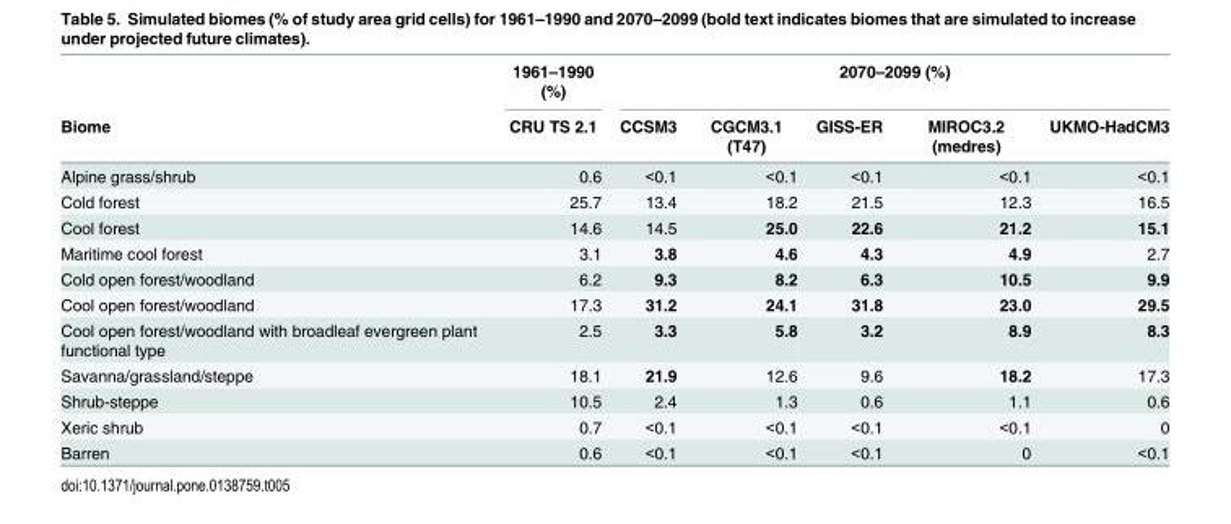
<table><thead><tr><td rowspan="2">Biome</td><td rowspan="2">1961–1990 (%) CRU TS 2.1</td><td colspan="5">2070–2099 (%)</td></tr><tr><td>CCSM3</td><td>CGCM3.1 (T47)</td><td>GISS-ER</td><td>MIROC3.2 (medres)</td><td>UKMO-HadCM3</td></tr></thead><tbody><tr><td>Alpine grass/shrub</td><td>0.6</td><td>&lt;0.1</td><td>&lt;0.1</td><td>&lt;0.1</td><td>&lt;0.1</td><td>&lt;0.1</td></tr><tr><td>Cold forest</td><td>25.7</td><td>13.4</td><td>18.2</td><td>21.5</td><td>12.3</td><td>16.5</td></tr><tr><td>Cool forest</td><td>14.6</td><td>14.5</td><td>25.0</td><td>22.6</td><td>21.2</td><td>15.1</td></tr><tr><td>Maritime cool forest</td><td>3.1</td><td>3.8</td><td>4.6</td><td>4.3</td><td>4.9</td><td>2.7</td></tr><tr><td>Cold open forest/woodland</td><td>6.2</td><td>9.3</td><td>8.2</td><td>6.3</td><td>10.5</td><td>9.9</td></tr><tr><td>Cool open forest/woodland</td><td>17.3</td><td>31.2</td><td>24.1</td><td>31.8</td><td>23.0</td><td>29.5</td></tr><tr><td>Cool open forest/woodland with broadleaf evergreen plant functional type</td><td>2.5</td><td>3.3</td><td>5.8</td><td>3.2</td><td>8.9</td><td>8.3</td></tr><tr><td>Savanna/grassland/steppe</td><td>18.1</td><td>21.9</td><td>12.6</td><td>9.6</td><td>18.2</td><td>17.3</td></tr><tr><td>Shrub-steppe</td><td>10.5</td><td>2.4</td><td>1.3</td><td>0.6</td><td>1.1</td><td>0.6</td></tr><tr><td>Xeric shrub</td><td>0.7</td><td>&lt;0.1</td><td>&lt;0.1</td><td>&lt;0.1</td><td>&lt;0.1</td><td>0</td></tr><tr><td>Barren</td><td>0.6</td><td>&lt;0.1</td><td>&lt;0.1</td><td>&lt;0.1</td><td>0</td><td>&lt;0.1</td></tr></tbody></table>